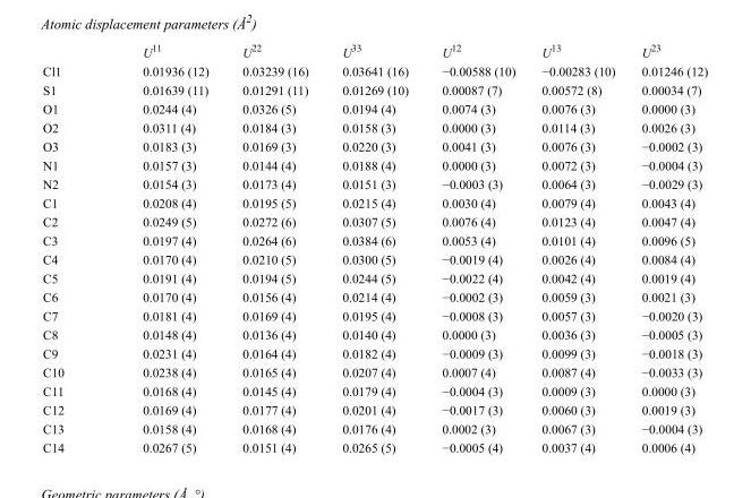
<table><thead><tr><td></td><td>U<sup>11</sup></td><td>U<sup>22</sup></td><td>U<sup>33</sup></td><td>U<sup>12</sup></td><td>U<sup>13</sup></td><td>U<sup>23</sup></td></tr></thead><tbody><tr><td>Cl1</td><td>0.01936 (12)</td><td>0.03239 (16)</td><td>0.03641 (16)</td><td>−0.00588 (10)</td><td>−0.00283 (10)</td><td>0.01246 (12)</td></tr><tr><td>S1</td><td>0.01639 (11)</td><td>0.01291 (11)</td><td>0.01269 (10)</td><td>0.00087 (7)</td><td>0.00572 (8)</td><td>0.00034 (7)</td></tr><tr><td>O1</td><td>0.0244 (4)</td><td>0.0326 (5)</td><td>0.0194 (4)</td><td>0.0074 (3)</td><td>0.0076 (3)</td><td>0.0000 (3)</td></tr><tr><td>O2</td><td>0.0311 (4)</td><td>0.0184 (3)</td><td>0.0158 (3)</td><td>0.0000 (3)</td><td>0.0114 (3)</td><td>0.0026 (3)</td></tr><tr><td>O3</td><td>0.0183 (3)</td><td>0.0169 (3)</td><td>0.0220 (3)</td><td>0.0041 (3)</td><td>0.0076 (3)</td><td>−0.0002 (3)</td></tr><tr><td>N1</td><td>0.0157 (3)</td><td>0.0144 (4)</td><td>0.0188 (4)</td><td>0.0000 (3)</td><td>0.0072 (3)</td><td>−0.0004 (3)</td></tr><tr><td>N2</td><td>0.0154 (3)</td><td>0.0173 (4)</td><td>0.0151 (3)</td><td>−0.0003 (3)</td><td>0.0064 (3)</td><td>−0.0029 (3)</td></tr><tr><td>C1</td><td>0.0208 (4)</td><td>0.0195 (5)</td><td>0.0215 (4)</td><td>0.0030 (4)</td><td>0.0079 (4)</td><td>0.0043 (4)</td></tr><tr><td>C2</td><td>0.0249 (5)</td><td>0.0272 (6)</td><td>0.0307 (5)</td><td>0.0076 (4)</td><td>0.0123 (4)</td><td>0.0047 (4)</td></tr><tr><td>C3</td><td>0.0197 (4)</td><td>0.0264 (6)</td><td>0.0384 (6)</td><td>0.0053 (4)</td><td>0.0101 (4)</td><td>0.0096 (5)</td></tr><tr><td>C4</td><td>0.0170 (4)</td><td>0.0210 (5)</td><td>0.0300 (5)</td><td>−0.0019 (4)</td><td>0.0026 (4)</td><td>0.0084 (4)</td></tr><tr><td>C5</td><td>0.0191 (4)</td><td>0.0194 (5)</td><td>0.0244 (5)</td><td>−0.0022 (4)</td><td>0.0042 (4)</td><td>0.0019 (4)</td></tr><tr><td>C6</td><td>0.0170 (4)</td><td>0.0156 (4)</td><td>0.0214 (4)</td><td>−0.0002 (3)</td><td>0.0059 (3)</td><td>0.0021 (3)</td></tr><tr><td>C7</td><td>0.0181 (4)</td><td>0.0169 (4)</td><td>0.0195 (4)</td><td>−0.0008 (3)</td><td>0.0057 (3)</td><td>−0.0020 (3)</td></tr><tr><td>C8</td><td>0.0148 (4)</td><td>0.0136 (4)</td><td>0.0140 (4)</td><td>0.0000 (3)</td><td>0.0036 (3)</td><td>−0.0005 (3)</td></tr><tr><td>C9</td><td>0.0231 (4)</td><td>0.0164 (4)</td><td>0.0182 (4)</td><td>−0.0009 (3)</td><td>0.0099 (3)</td><td>−0.0018 (3)</td></tr><tr><td>C10</td><td>0.0238 (4)</td><td>0.0165 (4)</td><td>0.0207 (4)</td><td>0.0007 (4)</td><td>0.0087 (4)</td><td>−0.0033 (3)</td></tr><tr><td>C11</td><td>0.0168 (4)</td><td>0.0145 (4)</td><td>0.0179 (4)</td><td>−0.0004 (3)</td><td>0.0009 (3)</td><td>0.0000 (3)</td></tr><tr><td>C12</td><td>0.0169 (4)</td><td>0.0177 (4)</td><td>0.0201 (4)</td><td>−0.0017 (3)</td><td>0.0060 (3)</td><td>0.0019 (3)</td></tr><tr><td>C13</td><td>0.0158 (4)</td><td>0.0168 (4)</td><td>0.0176 (4)</td><td>0.0002 (3)</td><td>0.0067 (3)</td><td>−0.0004 (3)</td></tr><tr><td>C14</td><td>0.0267 (5)</td><td>0.0151 (4)</td><td>0.0265 (5)</td><td>−0.0005 (4)</td><td>0.0037 (4)</td><td>0.0006 (4)</td></tr></tbody></table>